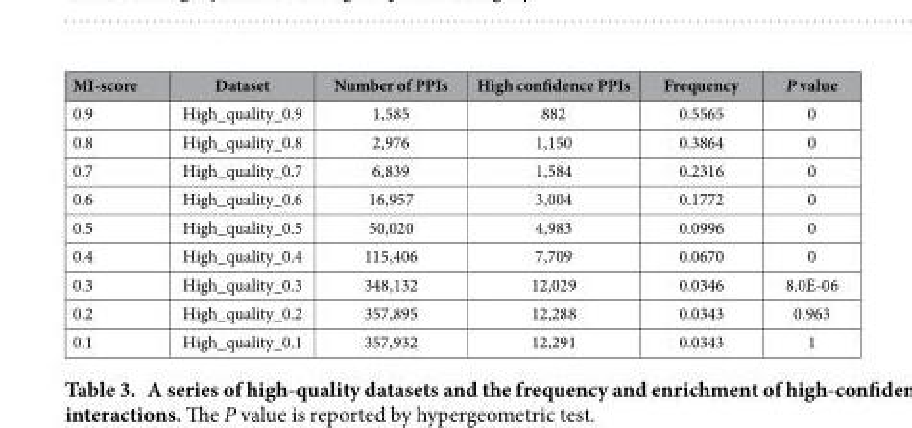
<table><thead><tr><td>MI-score</td><td>Dataset</td><td>Number of PPIs</td><td>High confidence PPIs</td><td>Frequency</td><td>P value</td></tr></thead><tbody><tr><td>0.9</td><td>High_quality_0.9</td><td>1,585</td><td>882</td><td>0.5565</td><td>0</td></tr><tr><td>0.8</td><td>High_quality_0.8</td><td>2,976</td><td>1,150</td><td>0.3864</td><td>0</td></tr><tr><td>0.7</td><td>High_quality_0.7</td><td>6,839</td><td>1,584</td><td>0.2316</td><td>0</td></tr><tr><td>0.6</td><td>High_quality_0.6</td><td>16,957</td><td>3,004</td><td>0.1772</td><td>0</td></tr><tr><td>0.5</td><td>High_quality_0.5</td><td>50,020</td><td>4,983</td><td>0.0996</td><td>0</td></tr><tr><td>0.4</td><td>High_quality_0.4</td><td>115,406</td><td>7,709</td><td>0.0670</td><td>0</td></tr><tr><td>0.3</td><td>High_quality_0.3</td><td>348,132</td><td>12,029</td><td>0.0346</td><td>8.0E-06</td></tr><tr><td>0.2</td><td>High_quality_0.2</td><td>357,895</td><td>12,288</td><td>0.0343</td><td>0.963</td></tr><tr><td>0.1</td><td>High_quality_0.1</td><td>357,932</td><td>12,291</td><td>0.0343</td><td>1</td></tr></tbody></table>